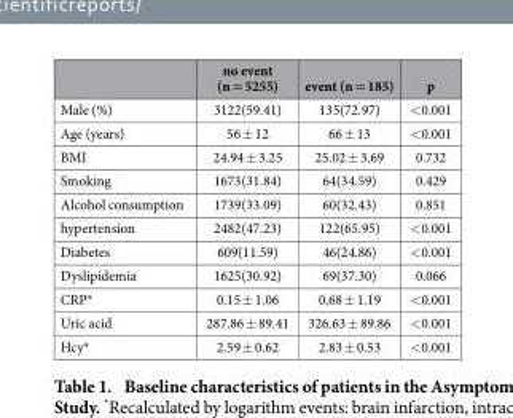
<table><thead><tr><td></td><td>no event (n = 5255)</td><td>event (n = 185)</td><td>p</td></tr></thead><tbody><tr><td>Male (%)</td><td>3122(59.41)</td><td>135(72.97)</td><td>&lt; 0.001</td></tr><tr><td>Age (years)</td><td>56 ± 12</td><td>66 ± 13</td><td>&lt; 0.001</td></tr><tr><td>BMI</td><td>24.94 ± 3.25</td><td>25.02 ± 3.69</td><td>0.732</td></tr><tr><td>Smoking</td><td>1673(31.84)</td><td>64(34.59)</td><td>0.429</td></tr><tr><td>Alcohol consumption</td><td>1739(33.09)</td><td>60(32.43)</td><td>0.851</td></tr><tr><td>hypertension</td><td>2482(47.23)</td><td>122(65.95)</td><td>&lt; 0.001</td></tr><tr><td>Diabetes</td><td>609(11.59)</td><td>46(24.86)</td><td>&lt; 0.001</td></tr><tr><td>Dyslipidemia</td><td>1625(30.92)</td><td>69(37.30)</td><td>0.066</td></tr><tr><td>CRP*</td><td>0.15 ± 1.06</td><td>0.68 ± 1.19</td><td>&lt; 0.001</td></tr><tr><td>Uric acid</td><td>287.86 ± 89.41</td><td>326.63 ± 89.86</td><td>&lt; 0.001</td></tr><tr><td>Hcy*</td><td>2.59 ± 0.62</td><td>2.83 ± 0.53</td><td>&lt; 0.001</td></tr></tbody></table>